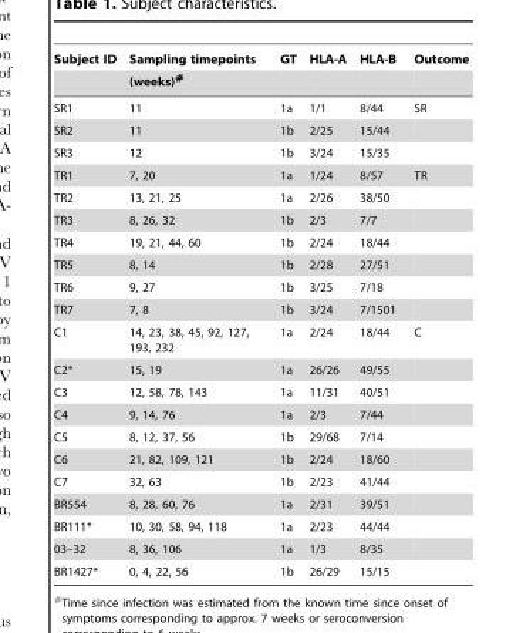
<table><thead><tr><td rowspan="2">Subject ID</td><td rowspan="2">Sampling timepoints (weeks)#</td><td rowspan="2">GT</td><td rowspan="2">HLA-A</td><td rowspan="2">HLA-B</td><td rowspan="2">Outcome</td></tr><tr></tr></thead><tbody><tr><td>SR1</td><td>11</td><td>1a</td><td>1/1</td><td>8/44</td><td>SR</td></tr><tr><td>SR2</td><td>11</td><td>1b</td><td>2/25</td><td>15/44</td><td></td></tr><tr><td>SR3</td><td>12</td><td>1b</td><td>3/24</td><td>15/35</td><td></td></tr><tr><td>TR1</td><td>7, 20</td><td>1a</td><td>1/24</td><td>8/57</td><td>TR</td></tr><tr><td>TR2</td><td>13, 21, 25</td><td>1a</td><td>2/26</td><td>38/50</td><td></td></tr><tr><td>TR3</td><td>8, 26, 32</td><td>1b</td><td>2/3</td><td>7/7</td><td></td></tr><tr><td>TR4</td><td>19, 21, 44, 60</td><td>1b</td><td>2/24</td><td>18/44</td><td></td></tr><tr><td>TR5</td><td>8, 14</td><td>1b</td><td>2/28</td><td>27/51</td><td></td></tr><tr><td>TR6</td><td>9, 27</td><td>1b</td><td>3/25</td><td>7/18</td><td></td></tr><tr><td>TR7</td><td>7, 8</td><td>1b</td><td>3/24</td><td>7/1501</td><td></td></tr><tr><td>C1</td><td>14, 23, 38, 45, 92, 127, 193, 232</td><td>1a</td><td>2/24</td><td>18/44</td><td>C</td></tr><tr><td>C2*</td><td>15, 19</td><td>1a</td><td>26/26</td><td>49/55</td><td></td></tr><tr><td>C3</td><td>12, 58, 78, 143</td><td>1a</td><td>11/31</td><td>40/51</td><td></td></tr><tr><td>C4</td><td>9, 14, 76</td><td>1a</td><td>2/3</td><td>7/44</td><td></td></tr><tr><td>C5</td><td>8, 12, 37, 56</td><td>1b</td><td>29/68</td><td>7/14</td><td></td></tr><tr><td>C6</td><td>21, 82, 109, 121</td><td>1b</td><td>2/24</td><td>18/60</td><td></td></tr><tr><td>C7</td><td>32, 63</td><td>1b</td><td>2/23</td><td>41/44</td><td></td></tr><tr><td>BR554</td><td>8, 28, 60, 76</td><td>1a</td><td>2/31</td><td>39/51</td><td></td></tr><tr><td>BR111*</td><td>10, 30, 58, 94, 118</td><td>1a</td><td>2/23</td><td>44/44</td><td></td></tr><tr><td>03–32</td><td>8, 36, 106</td><td>1a</td><td>1/3</td><td>8/35</td><td></td></tr><tr><td>BR1427*</td><td>0, 4, 22, 56</td><td>1b</td><td>26/29</td><td>15/15</td><td></td></tr></tbody></table>